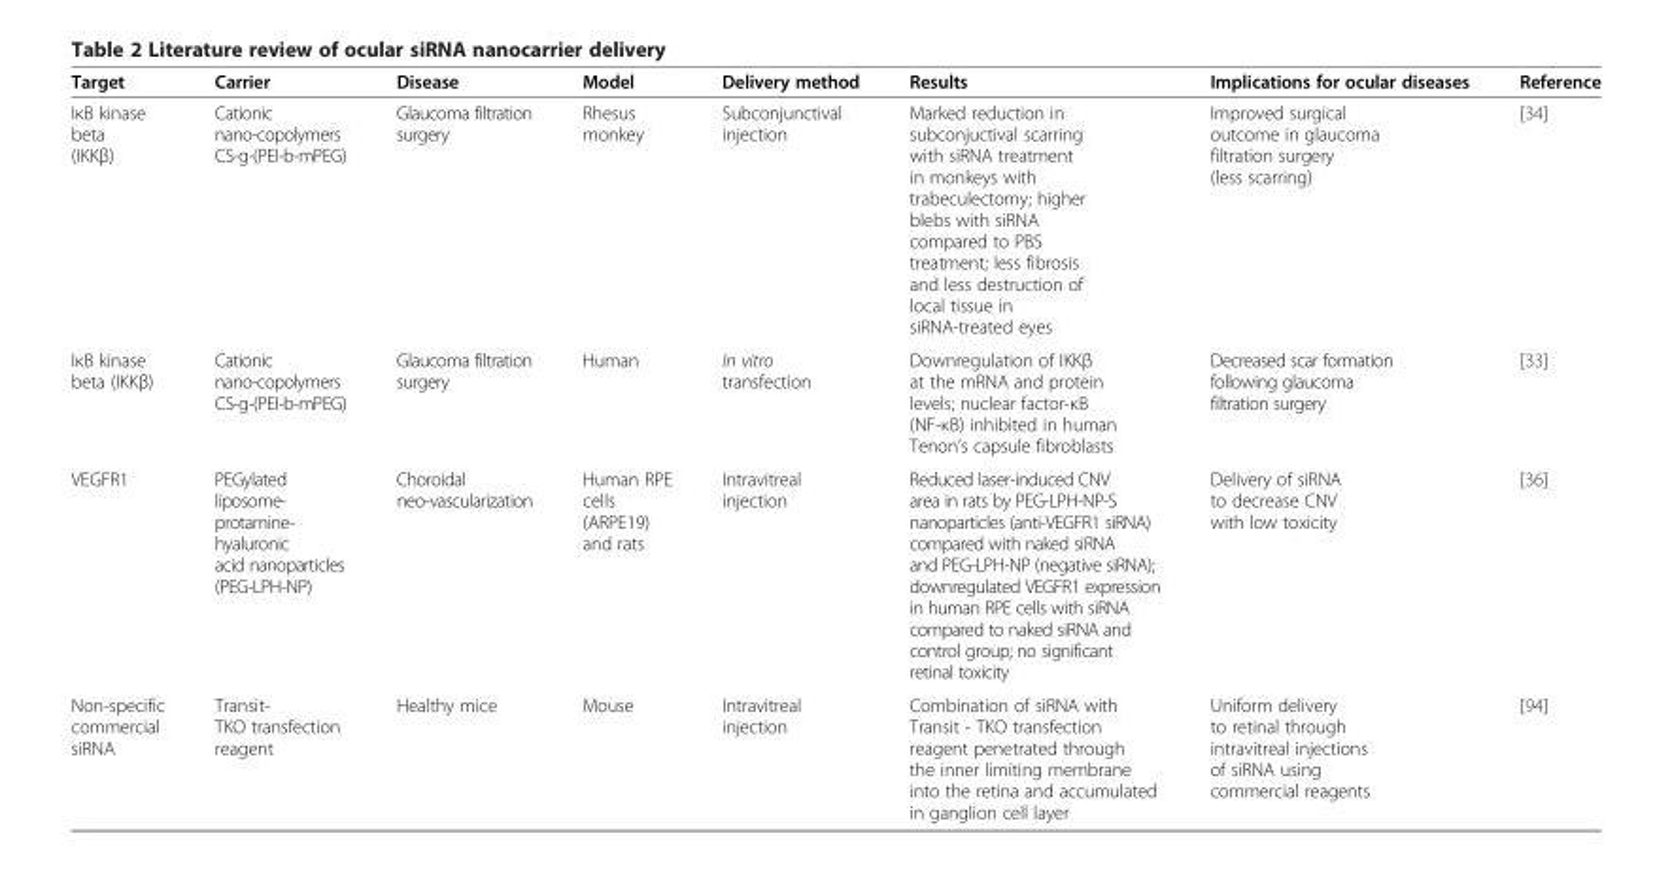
<table><thead><tr><td>Target</td><td>Carrier</td><td>Disease</td><td>Model</td><td>Delivery method</td><td>Results</td><td>Implications for ocular diseases</td><td>Reference</td></tr></thead><tbody><tr><td>IκB kinase beta (IKKβ)</td><td>Cationic nano-copolymers CS-g-(PEI-b-mPEG)</td><td>Glaucoma filtration surgery</td><td>Rhesus monkey</td><td>Subconjunctival injection</td><td>Marked reduction in subconjuctival scarring with siRNA treatment in monkeys with trabeculectomy; higher blebs with siRNA compared to PBS treatment; less fibrosis and less destruction of local tissue in siRNA-treated eyes</td><td>Improved surgical outcome in glaucoma filtration surgery (less scarring)</td><td>[34]</td></tr><tr><td>IκB kinase beta (IKKβ)</td><td>Cationic nano-copolymers CS-g-(PEI-b-mPEG)</td><td>Glaucoma filtration surgery</td><td>Human</td><td>In vitro transfection</td><td>Downregulation of IKKβ at the mRNA and protein levels; nuclear factor-κB (NF-κB) inhibited in human Tenon’s capsule fibroblasts</td><td>Decreased scar formation following glaucoma filtration surgery</td><td>[33]</td></tr><tr><td>VEGFR1</td><td>PEGylated liposome- protamine- hyaluronic acid nanoparticles (PEG-LPH-NP)</td><td>Choroidal neo-vascularization</td><td>Human RPE cells (ARPE19) and rats</td><td>Intravitreal injection</td><td>Reduced laser-induced CNV area in rats by PEG-LPH-NP-S nanoparticles (anti-VEGFR1 siRNA) compared with naked siRNA and PEG-LPH-NP (negative siRNA); downregulated VEGFR1 expression in human RPE cells with siRNA compared to naked siRNA and control group; no significant retinal toxicity</td><td>Delivery of siRNA to decrease CNV with low toxicity</td><td>[36]</td></tr><tr><td>Non-specific commercial siRNA</td><td>Transit- TKO transfection reagent</td><td>Healthy mice</td><td>Mouse</td><td>Intravitreal injection</td><td>Combination of siRNA with Transit - TKO transfection reagent penetrated through the inner limiting membrane into the retina and accumulated in ganglion cell layer</td><td>Uniform delivery to retinal through intravitreal injections of siRNA using commercial reagents</td><td>[94]</td></tr></tbody></table>